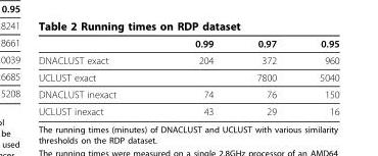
<table><thead><tr><td></td><td>0.99</td><td>0.97</td><td>0.95</td></tr></thead><tbody><tr><td>DNACLUST exact</td><td>204</td><td>372</td><td>960</td></tr><tr><td>UCLUST exact</td><td></td><td>7800</td><td>5040</td></tr><tr><td>DNACLUST inexact</td><td>74</td><td>76</td><td>150</td></tr><tr><td>UCLUST inexact</td><td>43</td><td>29</td><td>16</td></tr></tbody></table>